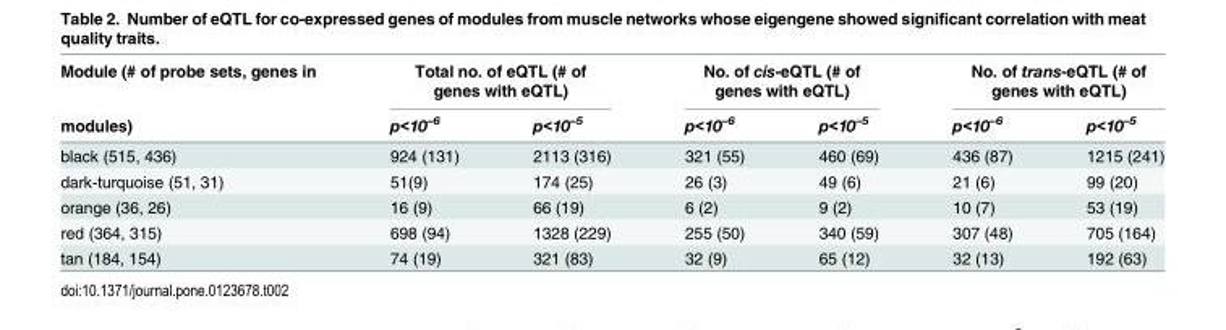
<table><thead><tr><td rowspan="2">Module (# of probe sets, genes in modules)</td><td colspan="2">Total no. of eQTL (# of genes with eQTL)</td><td colspan="2">No. of cis-eQTL (# of genes with eQTL)</td><td colspan="2">No. of trans-eQTL (# of genes with eQTL)</td></tr><tr><td>p&lt;10<sup>–6</sup></td><td>p&lt;10<sup>–5</sup></td><td>p&lt;10<sup>–6</sup></td><td>p&lt;10<sup>–5</sup></td><td>p&lt;10<sup>–6</sup></td><td>p&lt;10<sup>–5</sup></td></tr></thead><tbody><tr><td>black (515, 436)</td><td>924 (131)</td><td>2113 (316)</td><td>321 (55)</td><td>460 (69)</td><td>436 (87)</td><td>1215 (241)</td></tr><tr><td>dark-turquoise (51, 31)</td><td>51(9)</td><td>174 (25)</td><td>26 (3)</td><td>49 (6)</td><td>21 (6)</td><td>99 (20)</td></tr><tr><td>orange (36, 26)</td><td>16 (9)</td><td>66 (19)</td><td>6 (2)</td><td>9 (2)</td><td>10 (7)</td><td>53 (19)</td></tr><tr><td>red (364, 315)</td><td>698 (94)</td><td>1328 (229)</td><td>255 (50)</td><td>340 (59)</td><td>307 (48)</td><td>705 (164)</td></tr><tr><td>tan (184, 154)</td><td>74 (19)</td><td>321 (83)</td><td>32 (9)</td><td>65 (12)</td><td>32 (13)</td><td>192 (63)</td></tr></tbody></table>